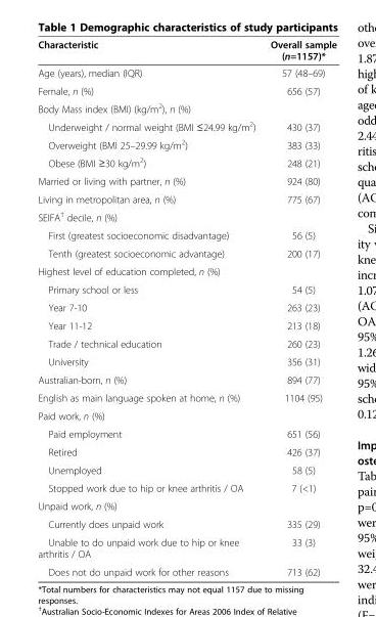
<table><thead><tr><td>Characteristic</td><td>Overall sample (n=1157)*</td></tr></thead><tbody><tr><td>Age (years), median (IQR)</td><td>57 (48–69)</td></tr><tr><td>Female, n (%)</td><td>656 (57)</td></tr><tr><td colspan="2">Body Mass index (BMI) (kg/m<sup>2</sup>), n (%)</td></tr><tr><td>Underweight / normal weight (BMI ≤24.99 kg/m<sup>2</sup>)</td><td>430 (37)</td></tr><tr><td>Overweight (BMI 25–29.99 kg/m<sup>2</sup>)</td><td>383 (33)</td></tr><tr><td>Obese (BMI ≥30 kg/m<sup>2</sup>)</td><td>248 (21)</td></tr><tr><td>Married or living with partner, n (%)</td><td>924 (80)</td></tr><tr><td>Living in metropolitan area, n (%)</td><td>775 (67)</td></tr><tr><td colspan="2">SEIFA<sup>†</sup> decile, n (%)</td></tr><tr><td>First (greatest socioeconomic disadvantage)</td><td>56 (5)</td></tr><tr><td>Tenth (greatest socioeconomic advantage)</td><td>200 (17)</td></tr><tr><td colspan="2">Highest level of education completed, n (%)</td></tr><tr><td>Primary school or less</td><td>54 (5)</td></tr><tr><td>Year 7-10</td><td>263 (23)</td></tr><tr><td>Year 11-12</td><td>213 (18)</td></tr><tr><td>Trade / technical education</td><td>260 (23)</td></tr><tr><td>University</td><td>356 (31)</td></tr><tr><td>Australian-born, n (%)</td><td>894 (77)</td></tr><tr><td>English as main language spoken at home, n (%)</td><td>1104 (95)</td></tr><tr><td colspan="2">Paid work, n (%)</td></tr><tr><td>Paid employment</td><td>651 (56)</td></tr><tr><td>Retired</td><td>426 (37)</td></tr><tr><td>Unemployed</td><td>58 (5)</td></tr><tr><td>Stopped work due to hip or knee arthritis / OA</td><td>7 (&lt;1)</td></tr><tr><td colspan="2">Unpaid work, n (%)</td></tr><tr><td>Currently does unpaid work</td><td>335 (29)</td></tr><tr><td>Unable to do unpaid work due to hip or knee arthritis / OA</td><td>33 (3)</td></tr><tr><td>Does not do unpaid work for other reasons</td><td>713 (62)</td></tr></tbody></table>